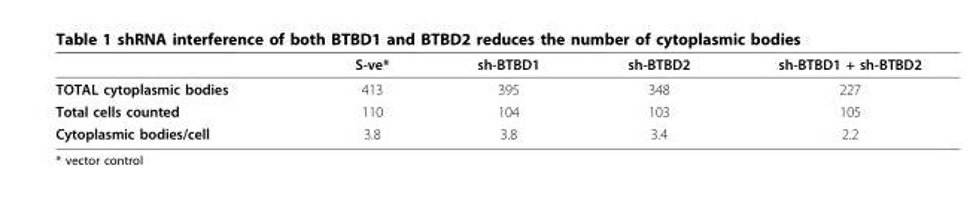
<table><thead><tr><td></td><td>S-ve*</td><td>sh-BTBD1</td><td>sh-BTBD2</td><td>sh-BTBD1 + sh-BTBD2</td></tr></thead><tbody><tr><td>TOTAL cytoplasmic bodies</td><td>413</td><td>395</td><td>348</td><td>227</td></tr><tr><td>Total cells counted</td><td>110</td><td>104</td><td>103</td><td>105</td></tr><tr><td>Cytoplasmic bodies/cell</td><td>3.8</td><td>3.8</td><td>3.4</td><td>2.2</td></tr></tbody></table>